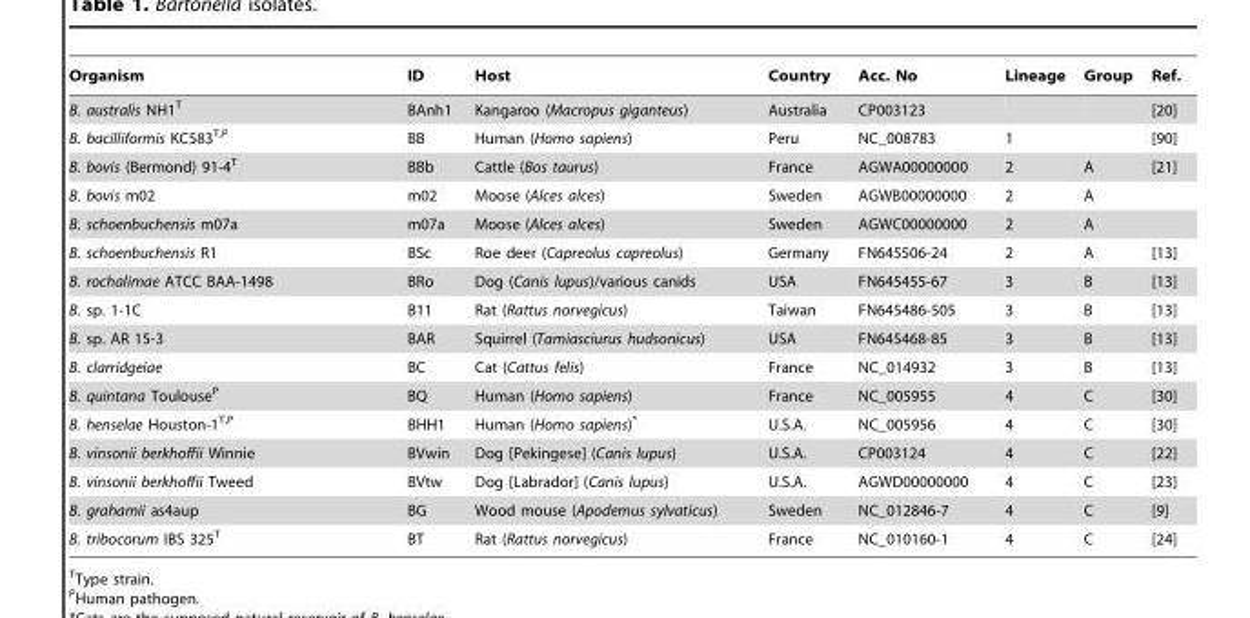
<table><thead><tr><td>Organism</td><td>ID</td><td>Host</td><td>Country</td><td>Acc. No</td><td>Lineage</td><td>Group</td><td>Ref.</td></tr></thead><tbody><tr><td>B. australis NH1<sup>T</sup></td><td>BAnh1</td><td>Kangaroo (Macropus giganteus)</td><td>Australia</td><td>CP003123</td><td></td><td></td><td>[20]</td></tr><tr><td>B. bacilliformis KC583<sup>T,</sup>P</td><td>BB</td><td>Human (Homo sapiens)</td><td>Peru</td><td>NC_008783</td><td>1</td><td></td><td>[90]</td></tr><tr><td>B. bovis (Bermond) 91-4<sup>T</sup></td><td>BBb</td><td>Cattle (Bos taurus)</td><td>France</td><td>AGWA00000000</td><td>2</td><td>A</td><td>[21]</td></tr><tr><td>B. bovis m02</td><td>m02</td><td>Moose (Alces alces)</td><td>Sweden</td><td>AGWB00000000</td><td>2</td><td>A</td><td></td></tr><tr><td>B. schoenbuchensis m07a</td><td>m07a</td><td>Moose (Alces alces)</td><td>Sweden</td><td>AGWC00000000</td><td>2</td><td>A</td><td></td></tr><tr><td>B. schoenbuchensis R1</td><td>BSc</td><td>Roe deer (Capreolus capreolus)</td><td>Germany</td><td>FN645506-24</td><td>2</td><td>A</td><td>[13]</td></tr><tr><td>B. rochalimae ATCC BAA-1498</td><td>BRo</td><td>Dog (Canis lupus)/various canids</td><td>USA</td><td>FN645455-67</td><td>3</td><td>B</td><td>[13]</td></tr><tr><td>B. sp. 1-1C</td><td>B11</td><td>Rat (Rattus norvegicus)</td><td>Taiwan</td><td>FN645486-505</td><td>3</td><td>B</td><td>[13]</td></tr><tr><td>B. sp. AR 15-3</td><td>BAR</td><td>Squirrel (Tamiasciurus hudsonicus)</td><td>USA</td><td>FN645468-85</td><td>3</td><td>B</td><td>[13]</td></tr><tr><td>B. clarridgeiae</td><td>BC</td><td>Cat (Cattus felis)</td><td>France</td><td>NC_014932</td><td>3</td><td>B</td><td>[13]</td></tr><tr><td>B. quintana Toulouse<sup>P</sup></td><td>BQ</td><td>Human (Homo sapiens)</td><td>France</td><td>NC_005955</td><td>4</td><td>C</td><td>[30]</td></tr><tr><td>B. henselae Houston-1<sup>T,</sup>P</td><td>BHH1</td><td>Human (Homo sapiens)*</td><td>U.S.A.</td><td>NC_005956</td><td>4</td><td>C</td><td>[30]</td></tr><tr><td>B. vinsonii berkhoffii Winnie</td><td>BVwin</td><td>Dog [Pekingese] (Canis lupus)</td><td>U.S.A.</td><td>CP003124</td><td>4</td><td>C</td><td>[22]</td></tr><tr><td>B. vinsonii berkhoffii Tweed</td><td>BVtw</td><td>Dog [Labrador] (Canis lupus)</td><td>U.S.A.</td><td>AGWD00000000</td><td>4</td><td>C</td><td>[23]</td></tr><tr><td>B. grahamii as4aup</td><td>BG</td><td>Wood mouse (Apodemus sylvaticus)</td><td>Sweden</td><td>NC_012846-7</td><td>4</td><td>C</td><td>[9]</td></tr><tr><td>B. tribocorum IBS 325<sup>T</sup></td><td>BT</td><td>Rat (Rattus norvegicus)</td><td>France</td><td>NC_010160-1</td><td>4</td><td>C</td><td>[24]</td></tr></tbody></table>